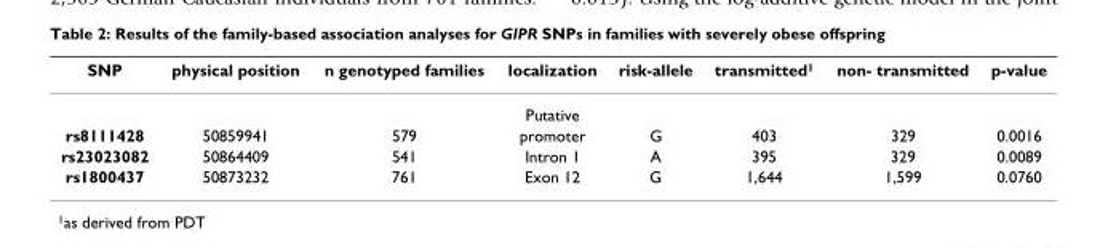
<table><thead><tr><td>SNP</td><td>physical position</td><td>n genotyped families</td><td>localization</td><td>risk-allele</td><td>transmitted<sup>1</sup></td><td>non- transmitted</td><td>p-value</td></tr></thead><tbody><tr><td></td><td></td><td></td><td>Putative</td><td></td><td></td><td></td><td></td></tr><tr><td>rs8111428</td><td>50859941</td><td>579</td><td>promoter</td><td>G</td><td>403</td><td>329</td><td>0.0016</td></tr><tr><td>rs23023082</td><td>50864409</td><td>541</td><td>Intron 1</td><td>A</td><td>395</td><td>329</td><td>0.0089</td></tr><tr><td>rs1800437</td><td>50873232</td><td>761</td><td>Exon 12</td><td>G</td><td>1,644</td><td>1,599</td><td>0.0760</td></tr></tbody></table>